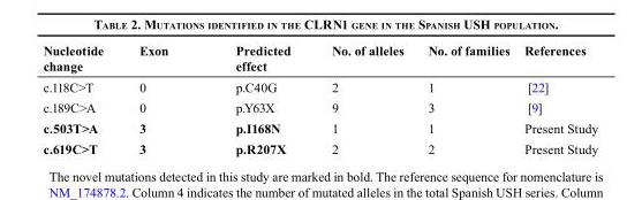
<table><thead><tr><td>Nucleotide change</td><td>Exon</td><td>Predicted effect</td><td>No. of alleles</td><td>No. of families</td><td>References</td></tr></thead><tbody><tr><td>c.118C&gt;T</td><td>0</td><td>p.C40G</td><td>2</td><td>1</td><td>[22]</td></tr><tr><td>c.189C&gt;A</td><td>0</td><td>p.Y63X</td><td>9</td><td>3</td><td>[9]</td></tr><tr><td>c.503T&gt;A</td><td>3</td><td>p.I168N</td><td>1</td><td>1</td><td>Present Study</td></tr><tr><td>c.619C&gt;T</td><td>3</td><td>p.R207X</td><td>2</td><td>2</td><td>Present Study</td></tr></tbody></table>